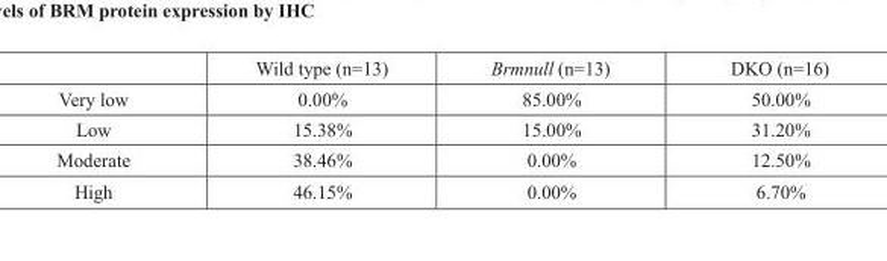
<table><thead><tr><td></td><td>Wild type (n=13)</td><td>Brmnull (n=13)</td><td>DKO (n=16)</td></tr></thead><tbody><tr><td>Very low</td><td>0.00%</td><td>85.00%</td><td>50.00%</td></tr><tr><td>Low</td><td>15.38%</td><td>15.00%</td><td>31.20%</td></tr><tr><td>Moderate</td><td>38.46%</td><td>0.00%</td><td>12.50%</td></tr><tr><td>High</td><td>46.15%</td><td>0.00%</td><td>6.70%</td></tr></tbody></table>